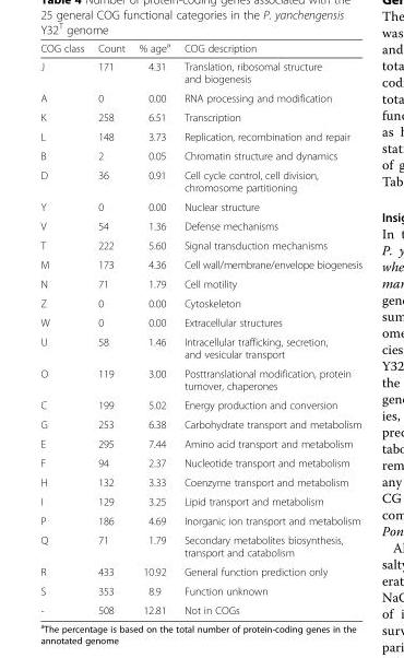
<table><thead><tr><td>COG class</td><td>Count</td><td>% age<sup>a</sup></td><td>COG description</td></tr></thead><tbody><tr><td>J</td><td>171</td><td>4.31</td><td>Translation, ribosomal structure and biogenesis</td></tr><tr><td>A</td><td>0</td><td>0.00</td><td>RNA processing and modification</td></tr><tr><td>K</td><td>258</td><td>6.51</td><td>Transcription</td></tr><tr><td>L</td><td>148</td><td>3.73</td><td>Replication, recombination and repair</td></tr><tr><td>B</td><td>2</td><td>0.05</td><td>Chromatin structure and dynamics</td></tr><tr><td>D</td><td>36</td><td>0.91</td><td>Cell cycle control, cell division, chromosome partitioning</td></tr><tr><td>Y</td><td>0</td><td>0.00</td><td>Nuclear structure</td></tr><tr><td>V</td><td>54</td><td>1.36</td><td>Defense mechanisms</td></tr><tr><td>T</td><td>222</td><td>5.60</td><td>Signal transduction mechanisms</td></tr><tr><td>M</td><td>173</td><td>4.36</td><td>Cell wall/membrane/envelope biogenesis</td></tr><tr><td>N</td><td>71</td><td>1.79</td><td>Cell motility</td></tr><tr><td>Z</td><td>0</td><td>0.00</td><td>Cytoskeleton</td></tr><tr><td>W</td><td>0</td><td>0.00</td><td>Extracellular structures</td></tr><tr><td>U</td><td>58</td><td>1.46</td><td>Intracellular trafficking, secretion, and vesicular transport</td></tr><tr><td>O</td><td>119</td><td>3.00</td><td>Posttranslational modification, protein turnover, chaperones</td></tr><tr><td>C</td><td>199</td><td>5.02</td><td>Energy production and conversion</td></tr><tr><td>G</td><td>253</td><td>6.38</td><td>Carbohydrate transport and metabolism</td></tr><tr><td>E</td><td>295</td><td>7.44</td><td>Amino acid transport and metabolism</td></tr><tr><td>F</td><td>94</td><td>2.37</td><td>Nucleotide transport and metabolism</td></tr><tr><td>H</td><td>132</td><td>3.33</td><td>Coenzyme transport and metabolism</td></tr><tr><td>I</td><td>129</td><td>3.25</td><td>Lipid transport and metabolism</td></tr><tr><td>P</td><td>186</td><td>4.69</td><td>Inorganic ion transport and metabolism</td></tr><tr><td>Q</td><td>71</td><td>1.79</td><td>Secondary metabolites biosynthesis, transport and catabolism</td></tr><tr><td>R</td><td>433</td><td>10.92</td><td>General function prediction only</td></tr><tr><td>S</td><td>353</td><td>8.9</td><td>Function unknown</td></tr><tr><td>-</td><td>508</td><td>12.81</td><td>Not in COGs</td></tr></tbody></table>